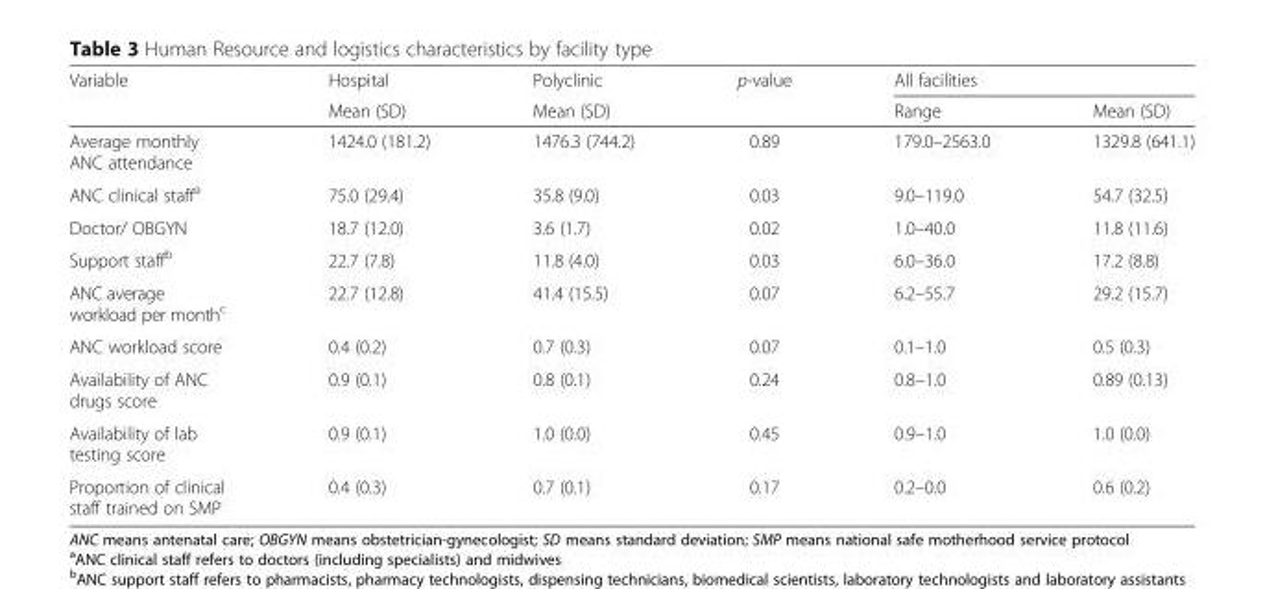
<table><thead><tr><td rowspan="2">Variable</td><td rowspan="2">Hospital Mean (SD)</td><td rowspan="2">Polyclinic Mean (SD)</td><td rowspan="2">p-value</td><td colspan="2">All facilities</td></tr><tr><td>Range</td><td>Mean (SD)</td></tr></thead><tbody><tr><td>Average monthly ANC attendance</td><td>1424.0 (181.2)</td><td>1476.3 (744.2)</td><td>0.89</td><td>179.0–2563.0</td><td>1329.8 (641.1)</td></tr><tr><td>ANC clinical staff<sup>a</sup></td><td>75.0 (29.4)</td><td>35.8 (9.0)</td><td>0.03</td><td>9.0–119.0</td><td>54.7 (32.5)</td></tr><tr><td>Doctor/ OBGYN</td><td>18.7 (12.0)</td><td>3.6 (1.7)</td><td>0.02</td><td>1.0–40.0</td><td>11.8 (11.6)</td></tr><tr><td>Support staff<sup>b</sup></td><td>22.7 (7.8)</td><td>11.8 (4.0)</td><td>0.03</td><td>6.0–36.0</td><td>17.2 (8.8)</td></tr><tr><td>ANC average workload per month<sup>c</sup></td><td>22.7 (12.8)</td><td>41.4 (15.5)</td><td>0.07</td><td>6.2–55.7</td><td>29.2 (15.7)</td></tr><tr><td>ANC workload score</td><td>0.4 (0.2)</td><td>0.7 (0.3)</td><td>0.07</td><td>0.1–1.0</td><td>0.5 (0.3)</td></tr><tr><td>Availability of ANC drugs score</td><td>0.9 (0.1)</td><td>0.8 (0.1)</td><td>0.24</td><td>0.8–1.0</td><td>0.89 (0.13)</td></tr><tr><td>Availability of lab testing score</td><td>0.9 (0.1)</td><td>1.0 (0.0)</td><td>0.45</td><td>0.9–1.0</td><td>1.0 (0.0)</td></tr><tr><td>Proportion of clinical staff trained on SMP</td><td>0.4 (0.3)</td><td>0.7 (0.1)</td><td>0.17</td><td>0.2–0.0</td><td>0.6 (0.2)</td></tr></tbody></table>